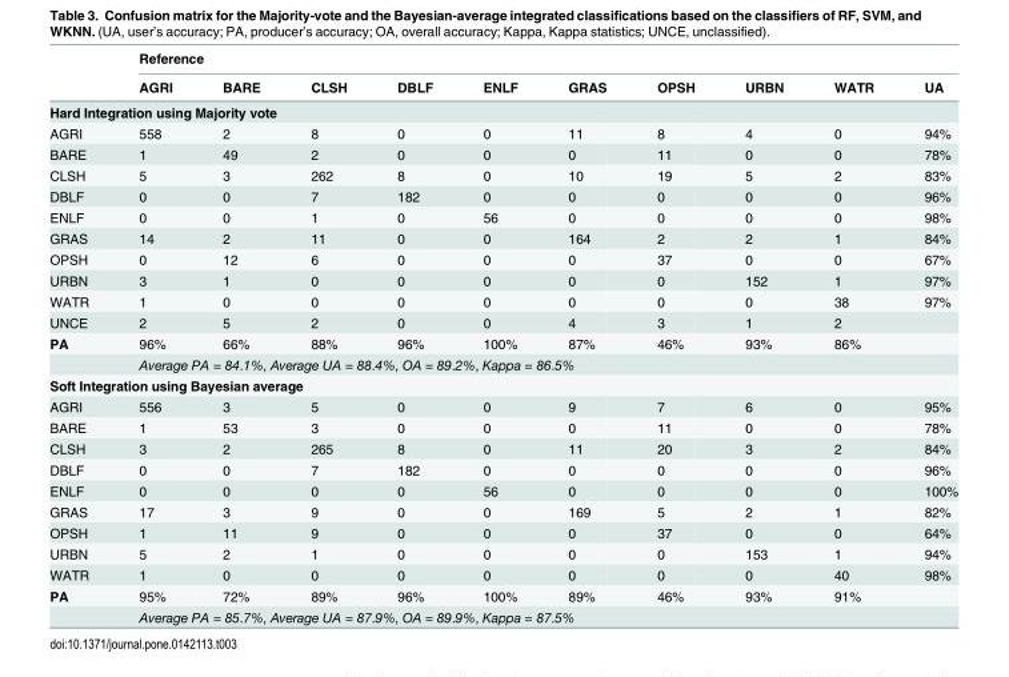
<table><thead><tr><td rowspan="2"></td><td colspan="10">Reference</td></tr><tr><td>AGRI</td><td>BARE</td><td>CLSH</td><td>DBLF</td><td>ENLF</td><td>GRAS</td><td>OPSH</td><td>URBN</td><td>WATR</td><td>UA</td></tr></thead><tbody><tr><td colspan="11">Hard Integration using Majority vote</td></tr><tr><td>AGRI</td><td>558</td><td>2</td><td>8</td><td>0</td><td>0</td><td>11</td><td>8</td><td>4</td><td>0</td><td>94%</td></tr><tr><td>BARE</td><td>1</td><td>49</td><td>2</td><td>0</td><td>0</td><td>0</td><td>11</td><td>0</td><td>0</td><td>78%</td></tr><tr><td>CLSH</td><td>5</td><td>3</td><td>262</td><td>8</td><td>0</td><td>10</td><td>19</td><td>5</td><td>2</td><td>83%</td></tr><tr><td>DBLF</td><td>0</td><td>0</td><td>7</td><td>182</td><td>0</td><td>0</td><td>0</td><td>0</td><td>0</td><td>96%</td></tr><tr><td>ENLF</td><td>0</td><td>0</td><td>1</td><td>0</td><td>56</td><td>0</td><td>0</td><td>0</td><td>0</td><td>98%</td></tr><tr><td>GRAS</td><td>14</td><td>2</td><td>11</td><td>0</td><td>0</td><td>164</td><td>2</td><td>2</td><td>1</td><td>84%</td></tr><tr><td>OPSH</td><td>0</td><td>12</td><td>6</td><td>0</td><td>0</td><td>0</td><td>37</td><td>0</td><td>0</td><td>67%</td></tr><tr><td>URBN</td><td>3</td><td>1</td><td>0</td><td>0</td><td>0</td><td>0</td><td>0</td><td>152</td><td>1</td><td>97%</td></tr><tr><td>WATR</td><td>1</td><td>0</td><td>0</td><td>0</td><td>0</td><td>0</td><td>0</td><td>0</td><td>38</td><td>97%</td></tr><tr><td>UNCE</td><td>2</td><td>5</td><td>2</td><td>0</td><td>0</td><td>4</td><td>3</td><td>1</td><td>2</td><td></td></tr><tr><td rowspan="2">PA</td><td>96%</td><td>66%</td><td>88%</td><td>96%</td><td>100%</td><td>87%</td><td>46%</td><td>93%</td><td>86%</td><td></td></tr><tr><td colspan="10">Average PA = 84.1%, Average UA = 88.4%, OA = 89.2%, Kappa = 86.5%</td></tr><tr><td colspan="11">Soft Integration using Bayesian average</td></tr><tr><td>AGRI</td><td>556</td><td>3</td><td>5</td><td>0</td><td>0</td><td>9</td><td>7</td><td>6</td><td>0</td><td>95%</td></tr><tr><td>BARE</td><td>1</td><td>53</td><td>3</td><td>0</td><td>0</td><td>0</td><td>11</td><td>0</td><td>0</td><td>78%</td></tr><tr><td>CLSH</td><td>3</td><td>2</td><td>265</td><td>8</td><td>0</td><td>11</td><td>20</td><td>3</td><td>2</td><td>84%</td></tr><tr><td>DBLF</td><td>0</td><td>0</td><td>7</td><td>182</td><td>0</td><td>0</td><td>0</td><td>0</td><td>0</td><td>96%</td></tr><tr><td>ENLF</td><td>0</td><td>0</td><td>0</td><td>0</td><td>56</td><td>0</td><td>0</td><td>0</td><td>0</td><td>100%</td></tr><tr><td>GRAS</td><td>17</td><td>3</td><td>9</td><td>0</td><td>0</td><td>169</td><td>5</td><td>2</td><td>1</td><td>82%</td></tr><tr><td>OPSH</td><td>1</td><td>11</td><td>9</td><td>0</td><td>0</td><td>0</td><td>37</td><td>0</td><td>0</td><td>64%</td></tr><tr><td>URBN</td><td>5</td><td>2</td><td>1</td><td>0</td><td>0</td><td>0</td><td>0</td><td>153</td><td>1</td><td>94%</td></tr><tr><td>WATR</td><td>1</td><td>0</td><td>0</td><td>0</td><td>0</td><td>0</td><td>0</td><td>0</td><td>40</td><td>98%</td></tr><tr><td rowspan="2">PA</td><td>95%</td><td>72%</td><td>89%</td><td>96%</td><td>100%</td><td>89%</td><td>46%</td><td>93%</td><td>91%</td><td></td></tr><tr><td colspan="10">Average PA = 85.7%, Average UA = 87.9%, OA = 89.9%, Kappa = 87.5%</td></tr></tbody></table>